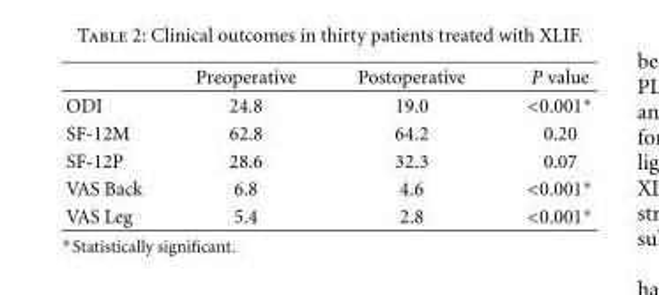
<table><thead><tr><td></td><td>Preoperative</td><td>Postoperative</td><td>P value</td></tr></thead><tbody><tr><td>ODI</td><td>24.8</td><td>19.0</td><td>&lt;0.001∗</td></tr><tr><td>SF-12M</td><td>62.8</td><td>64.2</td><td>0.20</td></tr><tr><td>SF-12P</td><td>28.6</td><td>32.3</td><td>0.07</td></tr><tr><td>VAS Back</td><td>6.8</td><td>4.6</td><td>&lt;0.001∗</td></tr><tr><td>VAS Leg</td><td>5.4</td><td>2.8</td><td>&lt;0.001∗</td></tr></tbody></table>